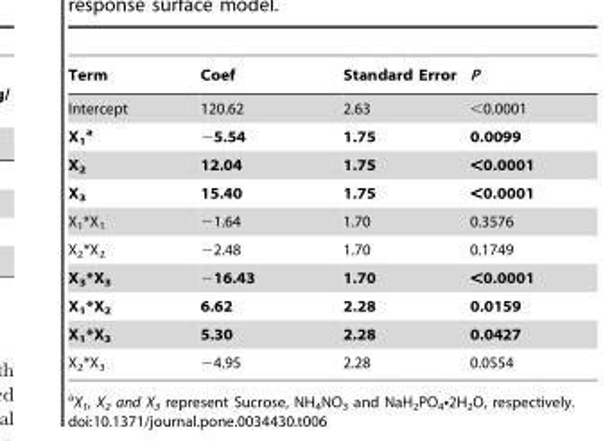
<table><thead><tr><td>Term</td><td>Coef</td><td>Standard Error</td><td>P</td></tr></thead><tbody><tr><td>Intercept</td><td>120.62</td><td>2.63</td><td>&lt;0.0001</td></tr><tr><td>X<sub>1</sub> a</td><td>−5.54</td><td>1.75</td><td>0.0099</td></tr><tr><td>X<sub>2</sub></td><td>12.04</td><td>1.75</td><td>&lt;0.0001</td></tr><tr><td>X<sub>3</sub></td><td>15.40</td><td>1.75</td><td>&lt;0.0001</td></tr><tr><td>X<sub>1</sub>*X<sub>1</sub></td><td>−1.64</td><td>1.70</td><td>0.3576</td></tr><tr><td>X<sub>2</sub>*X<sub>2</sub></td><td>−2.48</td><td>1.70</td><td>0.1749</td></tr><tr><td>X<sub>3</sub>*X<sub>3</sub></td><td>−16.43</td><td>1.70</td><td>&lt;0.0001</td></tr><tr><td>X<sub>1</sub>*X<sub>2</sub></td><td>6.62</td><td>2.28</td><td>0.0159</td></tr><tr><td>X<sub>1</sub>*X<sub>3</sub></td><td>5.30</td><td>2.28</td><td>0.0427</td></tr><tr><td>X<sub>2</sub>*X<sub>3</sub></td><td>−4.95</td><td>2.28</td><td>0.0554</td></tr></tbody></table>